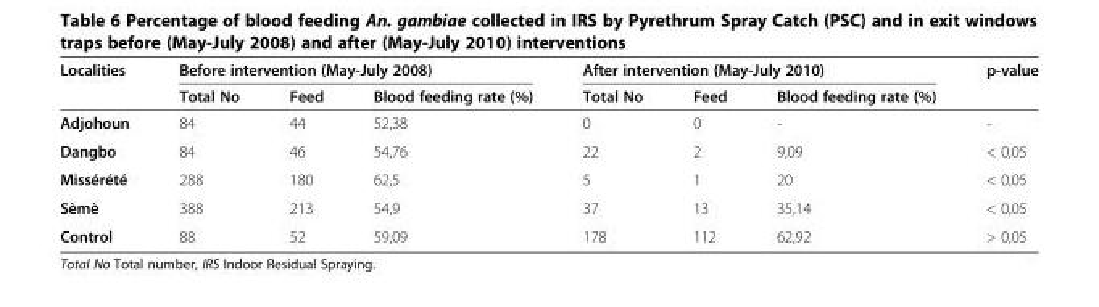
<table><thead><tr><td rowspan="2">Localities</td><td colspan="3">Before intervention (May-July 2008)</td><td colspan="3">After intervention (May-July 2010)</td><td rowspan="2">p-value</td></tr><tr><td>Total No</td><td>Feed</td><td>Blood feeding rate (%)</td><td>Total No</td><td>Feed</td><td>Blood feeding rate (%)</td></tr></thead><tbody><tr><td>Adjohoun</td><td>84</td><td>44</td><td>52,38</td><td>0</td><td>0</td><td>-</td><td>-</td></tr><tr><td>Dangbo</td><td>84</td><td>46</td><td>54,76</td><td>22</td><td>2</td><td>9,09</td><td>&lt; 0,05</td></tr><tr><td>Missérété</td><td>288</td><td>180</td><td>62,5</td><td>5</td><td>1</td><td>20</td><td>&lt; 0,05</td></tr><tr><td>Sèmè</td><td>388</td><td>213</td><td>54,9</td><td>37</td><td>13</td><td>35,14</td><td>&lt; 0,05</td></tr><tr><td>Control</td><td>88</td><td>52</td><td>59,09</td><td>178</td><td>112</td><td>62,92</td><td>&gt; 0,05</td></tr></tbody></table>